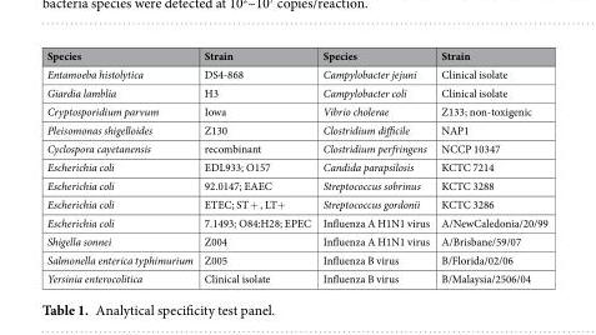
<table><thead><tr><td>Species</td><td>Strain</td><td>Species</td><td>Strain</td></tr></thead><tbody><tr><td>Entamoeba histolytica</td><td>DS4-868</td><td>Campylobacter jejuni</td><td>Clinical isolate</td></tr><tr><td>Giardia lamblia</td><td>H3</td><td>Campylobacter coli</td><td>Clinical isolate</td></tr><tr><td>Cryptosporidium parvum</td><td>Iowa</td><td>Vibrio cholerae</td><td>Z133; non-toxigenic</td></tr><tr><td>Pleisomonas shigelloides</td><td>Z130</td><td>Clostridium difficile</td><td>NAP1</td></tr><tr><td>Cyclospora cayetanensis</td><td>recombinant</td><td>Clostridium perfringens</td><td>NCCP 10347</td></tr><tr><td>Escherichia coli</td><td>EDL933; O157</td><td>Candida parapsilosis</td><td>KCTC 7214</td></tr><tr><td>Escherichia coli</td><td>92.0147; EAEC</td><td>Streptococcus sobrinus</td><td>KCTC 3288</td></tr><tr><td>Escherichia coli</td><td>ETEC; ST + , LT+</td><td>Streptococcus gordonii</td><td>KCTC 3286</td></tr><tr><td>Escherichia coli</td><td>7.1493; O84:H28; EPEC</td><td>Influenza A H1N1 virus</td><td>A/NewCaledonia/20/99</td></tr><tr><td>Shigella sonnei</td><td>Z004</td><td>Influenza A H1N1 virus</td><td>A/Brisbane/59/07</td></tr><tr><td>Salmonella enterica typhimurium</td><td>Z005</td><td>Influenza B virus</td><td>B/Florida/02/06</td></tr><tr><td>Yersinia enterocolitica</td><td>Clinical isolate</td><td>Influenza B virus</td><td>B/Malaysia/2506/04</td></tr></tbody></table>